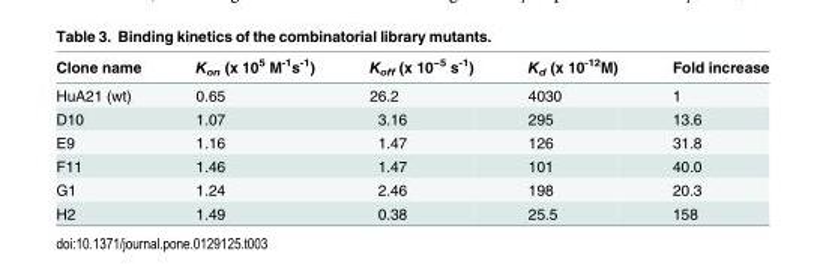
<table><thead><tr><td>Clone name</td><td>K<sub>on</sub> (x 10<sup>5</sup> M<sup>-1</sup>s<sup>-1</sup>)</td><td>K<sub>off</sub> (x 10<sup>−5</sup> s<sup>-1</sup>)</td><td>K<sub>d</sub> (x 10<sup>-12</sup>M)</td><td>Fold increase</td></tr></thead><tbody><tr><td>HuA21 (wt)</td><td>0.65</td><td>26.2</td><td>4030</td><td>1</td></tr><tr><td>D10</td><td>1.07</td><td>3.16</td><td>295</td><td>13.6</td></tr><tr><td>E9</td><td>1.16</td><td>1.47</td><td>126</td><td>31.8</td></tr><tr><td>F11</td><td>1.46</td><td>1.47</td><td>101</td><td>40.0</td></tr><tr><td>G1</td><td>1.24</td><td>2.46</td><td>198</td><td>20.3</td></tr><tr><td>H2</td><td>1.49</td><td>0.38</td><td>25.5</td><td>158</td></tr></tbody></table>